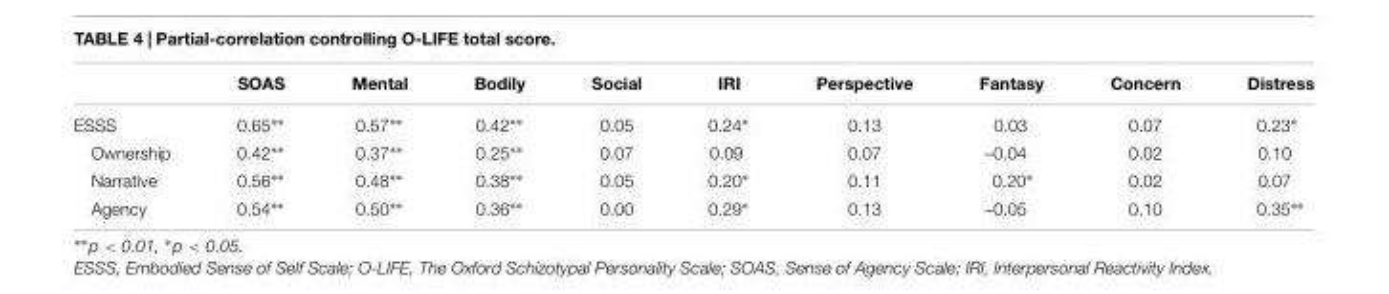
<table><thead><tr><td></td><td>SOAS</td><td>Mental</td><td>Bodily</td><td>Social</td><td>IRI</td><td>Perspective</td><td>Fantasy</td><td>Concern</td><td>Distress</td></tr></thead><tbody><tr><td>ESSS</td><td>0.65∗∗</td><td>0.57∗∗</td><td>0.42∗∗</td><td>0.05</td><td>0.24∗</td><td>0.13</td><td>0.03</td><td>0.07</td><td>0.23∗</td></tr><tr><td>Ownership</td><td>0.42∗∗</td><td>0.37∗∗</td><td>0.25∗∗</td><td>0.07</td><td>0.09</td><td>0.07</td><td>–0.04</td><td>0.02</td><td>0.10</td></tr><tr><td>Narrative</td><td>0.56∗∗</td><td>0.48∗∗</td><td>0.38∗∗</td><td>0.05</td><td>0.20∗</td><td>0.11</td><td>0.20∗</td><td>0.02</td><td>0.07</td></tr><tr><td>Agency</td><td>0.54∗∗</td><td>0.50∗∗</td><td>0.36∗∗</td><td>0.00</td><td>0.29∗</td><td>0.13</td><td>–0.05</td><td>0.10</td><td>0.35∗∗</td></tr></tbody></table>